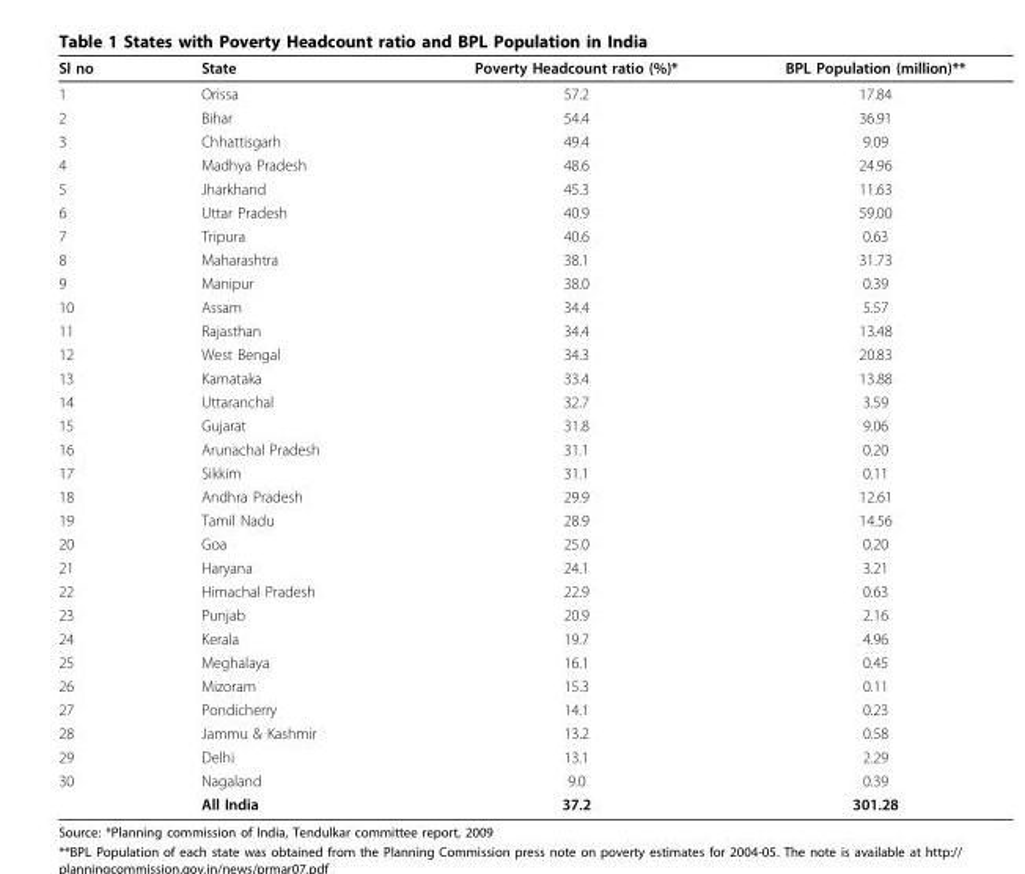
<table><thead><tr><td>Sl no</td><td>State</td><td>Poverty Headcount ratio (%)*</td><td>BPL Population (million)**</td></tr></thead><tbody><tr><td>1</td><td>Orissa</td><td>57.2</td><td>17.84</td></tr><tr><td>2</td><td>Bihar</td><td>54.4</td><td>36.91</td></tr><tr><td>3</td><td>Chhattisgarh</td><td>49.4</td><td>9.09</td></tr><tr><td>4</td><td>Madhya Pradesh</td><td>48.6</td><td>24.96</td></tr><tr><td>5</td><td>Jharkhand</td><td>45.3</td><td>11.63</td></tr><tr><td>6</td><td>Uttar Pradesh</td><td>40.9</td><td>59.00</td></tr><tr><td>7</td><td>Tripura</td><td>40.6</td><td>0.63</td></tr><tr><td>8</td><td>Maharashtra</td><td>38.1</td><td>31.73</td></tr><tr><td>9</td><td>Manipur</td><td>38.0</td><td>0.39</td></tr><tr><td>10</td><td>Assam</td><td>34.4</td><td>5.57</td></tr><tr><td>11</td><td>Rajasthan</td><td>34.4</td><td>13.48</td></tr><tr><td>12</td><td>West Bengal</td><td>34.3</td><td>20.83</td></tr><tr><td>13</td><td>Karnataka</td><td>33.4</td><td>13.88</td></tr><tr><td>14</td><td>Uttaranchal</td><td>32.7</td><td>3.59</td></tr><tr><td>15</td><td>Gujarat</td><td>31.8</td><td>9.06</td></tr><tr><td>16</td><td>Arunachal Pradesh</td><td>31.1</td><td>0.20</td></tr><tr><td>17</td><td>Sikkim</td><td>31.1</td><td>0.11</td></tr><tr><td>18</td><td>Andhra Pradesh</td><td>29.9</td><td>12.61</td></tr><tr><td>19</td><td>Tamil Nadu</td><td>28.9</td><td>14.56</td></tr><tr><td>20</td><td>Goa</td><td>25.0</td><td>0.20</td></tr><tr><td>21</td><td>Haryana</td><td>24.1</td><td>3.21</td></tr><tr><td>22</td><td>Himachal Pradesh</td><td>22.9</td><td>0.63</td></tr><tr><td>23</td><td>Punjab</td><td>20.9</td><td>2.16</td></tr><tr><td>24</td><td>Kerala</td><td>19.7</td><td>4.96</td></tr><tr><td>25</td><td>Meghalaya</td><td>16.1</td><td>0.45</td></tr><tr><td>26</td><td>Mizoram</td><td>15.3</td><td>0.11</td></tr><tr><td>27</td><td>Pondicherry</td><td>14.1</td><td>0.23</td></tr><tr><td>28</td><td>Jammu &amp; Kashmir</td><td>13.2</td><td>0.58</td></tr><tr><td>29</td><td>Delhi</td><td>13.1</td><td>2.29</td></tr><tr><td rowspan="2">30</td><td>Nagaland</td><td>9.0</td><td>0.39</td></tr><tr><td>All India</td><td>37.2</td><td>301.28</td></tr></tbody></table>